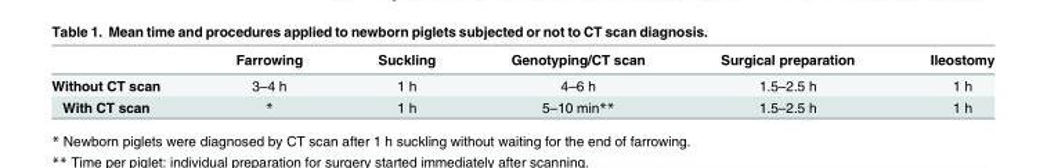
<table><thead><tr><td></td><td>Farrowing</td><td>Suckling</td><td>Genotyping/CT scan</td><td>Surgical preparation</td><td>Ileostomy</td></tr></thead><tbody><tr><td>Without CT scan</td><td>3–4 h</td><td>1 h</td><td>4–6 h</td><td>1.5–2.5 h</td><td>1 h</td></tr><tr><td>With CT scan</td><td>*</td><td>1 h</td><td>5–10 min**</td><td>1.5–2.5 h</td><td>1 h</td></tr></tbody></table>